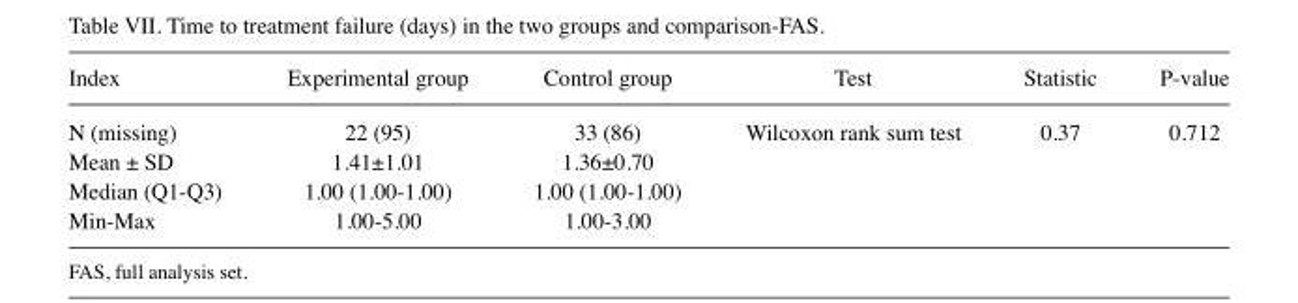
<table><thead><tr><td>Index</td><td>Experimental group</td><td>Control group</td><td>Test</td><td>Statistic</td><td>P-value</td></tr></thead><tbody><tr><td>N (missing)</td><td>22 (95)</td><td>33 (86)</td><td>Wilcoxon rank sum test</td><td>0.37</td><td>0.712</td></tr><tr><td>Mean ± SD</td><td>1.41±1.01</td><td>1.36±0.70</td><td></td><td></td><td></td></tr><tr><td>Median (Q1-Q3)</td><td>1.00 (1.00-1.00)</td><td>1.00 (1.00-1.00)</td><td></td><td></td><td></td></tr><tr><td>Min-Max</td><td>1.00-5.00</td><td>1.00-3.00</td><td></td><td></td><td></td></tr></tbody></table>